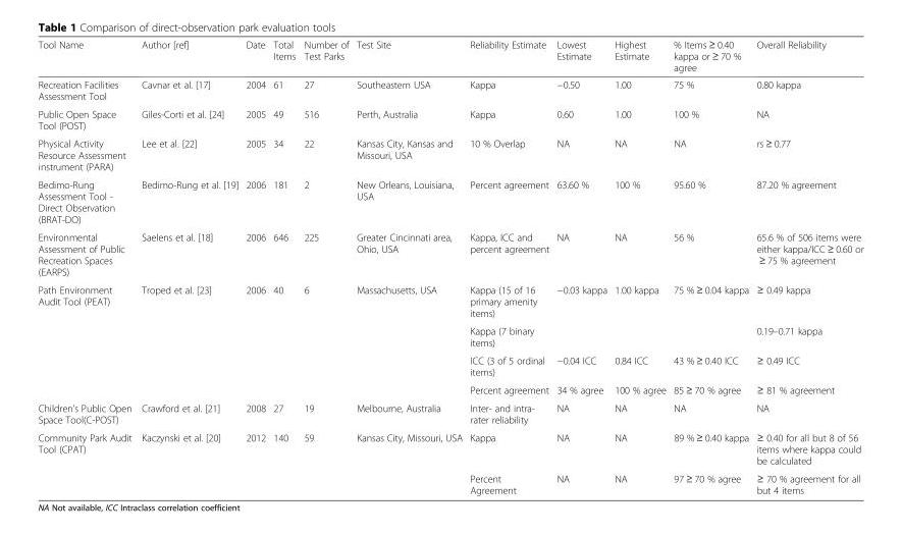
<table><thead><tr><td>Tool Name</td><td>Author [ref]</td><td>Date</td><td>Total Items</td><td>Number of Test Parks</td><td>Test Site</td><td>Reliability Estimate</td><td>Lowest Estimate</td><td>Highest Estimate</td><td>% Items ≥ 0.40 kappa or ≥ 70 % agree</td><td>Overall Reliability</td></tr></thead><tbody><tr><td>Recreation Facilities Assessment Tool</td><td>Cavnar et al. [17]</td><td>2004</td><td>61</td><td>27</td><td>Southeastern USA</td><td>Kappa</td><td>−0.50</td><td>1.00</td><td>75 %</td><td>0.80 kappa</td></tr><tr><td>Public Open Space Tool (POST)</td><td>Giles-Corti et al. [24]</td><td>2005</td><td>49</td><td>516</td><td>Perth, Australia</td><td>Kappa</td><td>0.60</td><td>1.00</td><td>100 %</td><td>NA</td></tr><tr><td>Physical Activity Resource Assessment instrument (PARA)</td><td>Lee et al. [22]</td><td>2005</td><td>34</td><td>22</td><td>Kansas City, Kansas and Missouri, USA</td><td>10 % Overlap</td><td>NA</td><td>NA</td><td>NA</td><td>rs ≥ 0.77</td></tr><tr><td>Bedimo-Rung Assessment Tool - Direct Observation (BRAT-DO)</td><td>Bedimo-Rung et al. [19]</td><td>2006</td><td>181</td><td>2</td><td>New Orleans, Louisiana, USA</td><td>Percent agreement</td><td>63.60 %</td><td>100 %</td><td>95.60 %</td><td>87.20 % agreement</td></tr><tr><td>Environmental Assessment of Public Recreation Spaces (EARPS)</td><td>Saelens et al. [18]</td><td>2006</td><td>646</td><td>225</td><td>Greater Cincinnati area, Ohio, USA</td><td>Kappa, ICC and percent agreement</td><td>NA</td><td>NA</td><td>56 %</td><td>65.6 % of 506 items were either kappa/ICC ≥ 0.60 or ≥ 75 % agreement</td></tr><tr><td rowspan="4">Path Environment Audit Tool (PEAT)</td><td rowspan="4">Troped et al. [23]</td><td rowspan="4">2006</td><td rowspan="4">40</td><td rowspan="4">6</td><td rowspan="4">Massachusetts, USA</td><td>Kappa (15 of 16 primary amenity items)</td><td rowspan="2">−0.03 kappa</td><td rowspan="2">1.00 kappa</td><td rowspan="2">75 % ≥ 0.04 kappa</td><td>≥ 0.49 kappa</td></tr><tr><td>Kappa (7 binary items)</td><td>0.19–0.71 kappa</td></tr><tr><td>ICC (3 of 5 ordinal items)</td><td>−0.04 ICC</td><td>0.84 ICC</td><td>43 % ≥ 0.40 ICC</td><td>≥ 0.49 ICC</td></tr><tr><td>Percent agreement</td><td>34 % agree</td><td>100 % agree</td><td>85 ≥ 70 % agree</td><td>≥ 81 % agreement</td></tr><tr><td>Children’s Public Open Space Tool(C-POST)</td><td>Crawford et al. [21]</td><td>2008</td><td>27</td><td>19</td><td>Melbourne, Australia</td><td>Inter- and intra- rater reliability</td><td>NA</td><td>NA</td><td>NA</td><td>NA</td></tr><tr><td rowspan="2">Community Park Audit Tool (CPAT)</td><td rowspan="2">Kaczynski et al. [20]</td><td rowspan="2">2012</td><td rowspan="2">140</td><td rowspan="2">59</td><td rowspan="2">Kansas City, Missouri, USA</td><td>Kappa</td><td>NA</td><td>NA</td><td>89 % ≥ 0.40 kappa</td><td>≥ 0.40 for all but 8 of 56 items where kappa could be calculated</td></tr><tr><td>Percent Agreement</td><td>NA</td><td>NA</td><td>97 ≥ 70 % agree</td><td>≥ 70 % agreement for all but 4 items</td></tr></tbody></table>